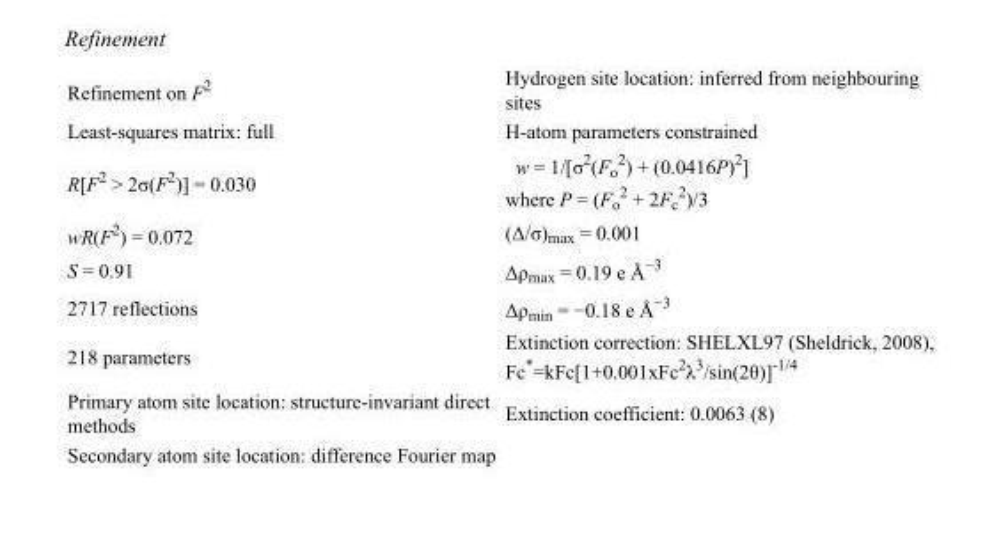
<table><tbody><tr><td>Refinement on F<sup>2</sup></td><td>Hydrogen site location: inferred from neighbouring sites</td></tr><tr><td>Least-squares matrix: full</td><td>H-atom parameters constrained</td></tr><tr><td>R[F<sup>2</sup> &gt; 2σ(F<sup>2</sup>)] = 0.030</td><td>w = 1/[σ<sup>2</sup>(F<sub>o</sub> <sup>2</sup>) + (0.0416P)<sup>2</sup>] where P = (F<sub>o</sub> <sup>2</sup> + 2F<sub>c</sub> <sup>2</sup>)/3</td></tr><tr><td>wR(F<sup>2</sup>) = 0.072</td><td>(Δ/σ)<sub>max</sub> = 0.001</td></tr><tr><td>S = 0.91</td><td>Δρ<sub>max</sub> = 0.19 e Å<sup>−3</sup></td></tr><tr><td>2717 reflections</td><td>Δρ<sub>min</sub> = −0.18 e Å<sup>−3</sup></td></tr><tr><td>218 parameters</td><td>Extinction correction: SHELXL97 (Sheldrick, 2008), Fc*=kFc[1+0.001xFc<sup>2</sup>λ<sup>3</sup>/sin(2θ)]<sup>-1/4</sup></td></tr><tr><td>Primary atom site location: structure-invariant direct methods</td><td>Extinction coefficient: 0.0063 (8)</td></tr><tr><td>Secondary atom site location: difference Fourier map</td><td></td></tr></tbody></table>